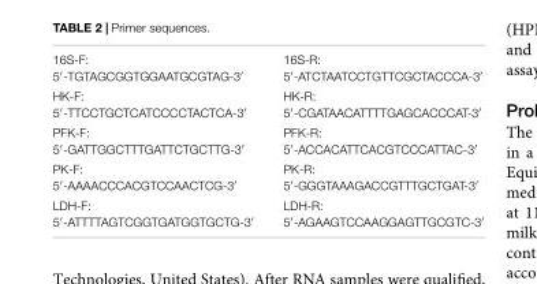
<table><tbody><tr><td>16S-F: 5′-TGTAGCGGTGGAATGCGTAG-3′</td><td>16S-R: 5′-ATCTAATCCTGTTCGCTACCCA-3′</td></tr><tr><td>HK-F: 5′-TTCCTGCTCATCCCCTACTCA-3′</td><td>HK-R: 5′-CGATAACATTTTGAGCACCCAT-3′</td></tr><tr><td>PFK-F: 5′-GATTGGCTTTGATTCTGCTTG-3′</td><td>PFK-R: 5′-ACCACATTCACGTCCCATTAC-3′</td></tr><tr><td>PK-F: 5′-AAAACCCACGTCCAACTCG-3′</td><td>PK-R: 5′-GGGTAAAGACCGTTTGCTGAT-3′</td></tr><tr><td>LDH-F: 5′-ATTTTAGTCGGTGATGGTGCTG-3′</td><td>LDH-R: 5′-AGAAGTCCAAGGAGTTGCGTC-3′</td></tr></tbody></table>